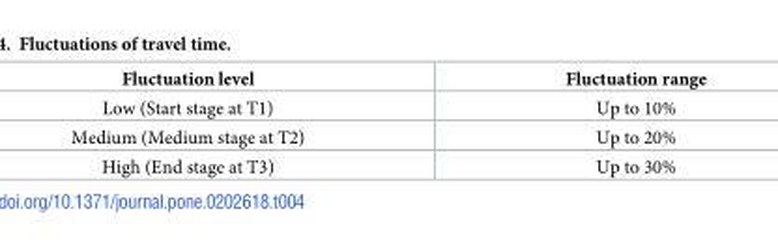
<table><thead><tr><td>Fluctuation level</td><td>Fluctuation range</td></tr></thead><tbody><tr><td>Low (Start stage at T1)</td><td>Up to 10%</td></tr><tr><td>Medium (Medium stage at T2)</td><td>Up to 20%</td></tr><tr><td>High (End stage at T3)</td><td>Up to 30%</td></tr></tbody></table>